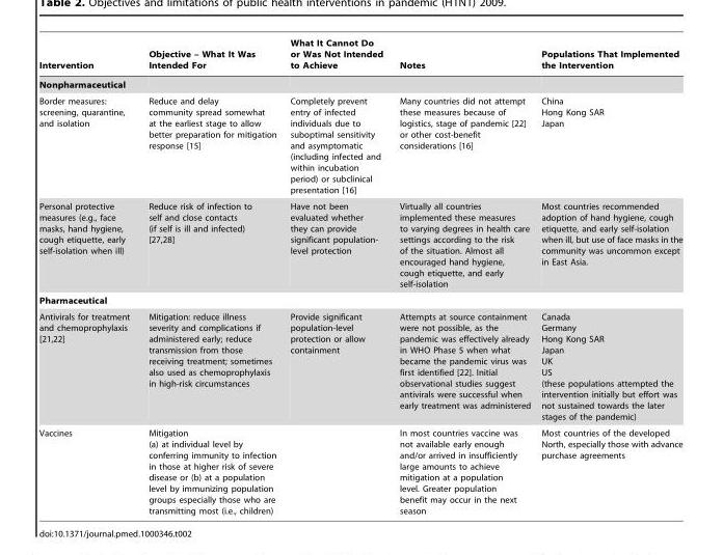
<table><thead><tr><td>Intervention</td><td>Objective – What It Was Intended For</td><td>What It Cannot Do or Was Not Intended to Achieve</td><td>Notes</td><td>Populations That Implemented the Intervention</td></tr></thead><tbody><tr><td colspan="5">Nonpharmaceutical</td></tr><tr><td>Border measures: screening, quarantine, and isolation</td><td>Reduce and delay community spread somewhat at the earliest stage to allow better preparation for mitigation response [15]</td><td>Completely prevent entry of infected individuals due to suboptimal sensitivity and asymptomatic (including infected and within incubation period) or subclinical presentation [16]</td><td>Many countries did not attempt these measures because of logistics, stage of pandemic [22] or other cost-benefit considerations [16]</td><td>China Hong Kong SAR Japan</td></tr><tr><td>Personal protective measures (e.g., face masks, hand hygiene, cough etiquette, early self-isolation when ill)</td><td>Reduce risk of infection to self and close contacts (if self is ill and infected) [27,28]</td><td>Have not been evaluated whether they can provide significant population- level protection</td><td>Virtually all countries implemented these measures to varying degrees in health care settings according to the risk of the situation. Almost all encouraged hand hygiene, cough etiquette, and early self-isolation</td><td>Most countries recommended adoption of hand hygiene, cough etiquette, and early self-isolation when ill, but use of face masks in the community was uncommon except in East Asia.</td></tr><tr><td colspan="5">Pharmaceutical</td></tr><tr><td>Antivirals for treatment and chemoprophylaxis [21,22]</td><td>Mitigation: reduce illness severity and complications if administered early; reduce transmission from those receiving treatment; sometimes also used as chemoprophylaxis in high-risk circumstances</td><td>Provide significant population-level protection or allow containment</td><td>Attempts at source containment were not possible, as the pandemic was effectively already in WHO Phase 5 when what became the pandemic virus was first identified [22]. Initial observational studies suggest antivirals were successful when early treatment was administered</td><td>Canada Germany Hong Kong SAR Japan UK US (these populations attempted the intervention initially but effort was not sustained towards the later stages of the pandemic)</td></tr><tr><td>Vaccines</td><td>Mitigation (a) at individual level by conferring immunity to infection in those at higher risk of severe disease or (b) at a population level by immunizing population groups especially those who are transmitting most (i.e., children)</td><td></td><td>In most countries vaccine was not available early enough and/or arrived in insufficiently large amounts to achieve mitigation at a population level. Greater population benefit may occur in the next season</td><td>Most countries of the developed North, especially those with advance purchase agreements</td></tr></tbody></table>